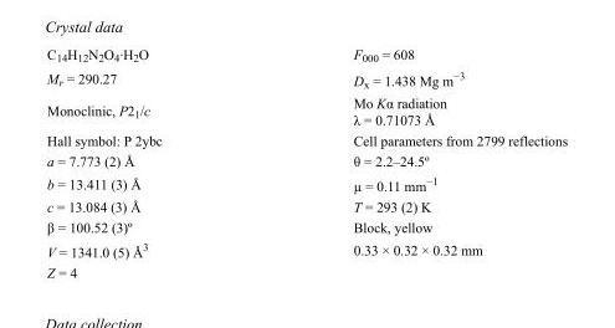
<table><tbody><tr><td>C<sub>14</sub>H<sub>12</sub>N<sub>2</sub>O<sub>4</sub>·H<sub>2</sub>O</td><td>F<sub>000</sub> = 608</td></tr><tr><td>M<sub>r</sub> = 290.27</td><td>D<sub>x</sub> = 1.438 Mg m<sup>−3</sup></td></tr><tr><td>Monoclinic, P2<sub>1</sub>/c</td><td>Mo Kα radiation λ = 0.71073 Å</td></tr><tr><td>Hall symbol: P 2ybc</td><td>Cell parameters from 2799 reflections</td></tr><tr><td>a = 7.773 (2) Å</td><td>θ = 2.2–24.5º</td></tr><tr><td>b = 13.411 (3) Å</td><td>µ = 0.11 mm<sup>−1</sup></td></tr><tr><td>c = 13.084 (3) Å</td><td>T = 293 (2) K</td></tr><tr><td>β = 100.52 (3)º</td><td>Block, yellow</td></tr><tr><td>V = 1341.0 (5) Å<sup>3</sup></td><td>0.33 × 0.32 × 0.32 mm</td></tr><tr><td>Z = 4</td><td></td></tr></tbody></table>